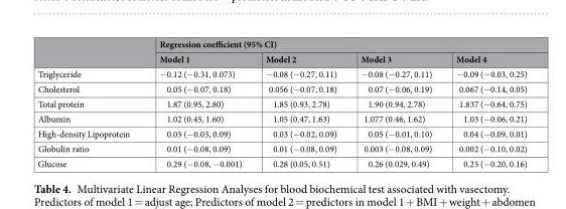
<table><thead><tr><td rowspan="2"></td><td colspan="4">Regression coefficient (95% CI)</td></tr><tr><td>Model 1</td><td>Model 2</td><td>Model 3</td><td>Model 4</td></tr></thead><tbody><tr><td>Triglyceride</td><td>−0.12 (−0.31, 0.073)</td><td>−0.08 (−0.27, 0.11)</td><td>−0.08 (−0.27, 0.11)</td><td>−0.09 (−0.03, 0.25)</td></tr><tr><td>Cholesterol</td><td>0.05 (−0.07, 0.18)</td><td>0.056 (−0.07, 0.18)</td><td>0.07 (−0.06, 0.19)</td><td>0.067 (−0.14, 0.05)</td></tr><tr><td>Total protein</td><td>1.87 (0.95, 2.80)</td><td>1.85 (0.93, 2.78)</td><td>1.90 (0.94, 2.78)</td><td>1.837 (−0.64, 0.75)</td></tr><tr><td>Albumin</td><td>1.02 (0.45, 1.60)</td><td>1.05 (0.47, 1.63)</td><td>1.077 (0.46, 1.62)</td><td>1.03 (−0.06, 0.21)</td></tr><tr><td>High-density Lipoprotein</td><td>0.03 (−0.03, 0.09)</td><td>0.03 (−0.02, 0.09)</td><td>0.05 (−0.01, 0.10)</td><td>0.04 (−0.09, 0.01)</td></tr><tr><td>Globulin ratio</td><td>0.01 (−0.08, 0.09)</td><td>0.01 (−0.08, 0.09)</td><td>0.003 (−0.08, 0.09)</td><td>0.002 (−0.10, 0.02)</td></tr><tr><td>Glucose</td><td>0.29 (−0.08, −0.001)</td><td>0.28 (0.05, 0.51)</td><td>0.26 (0.029, 0.49)</td><td>0.25 (−0.20, 0.16)</td></tr></tbody></table>